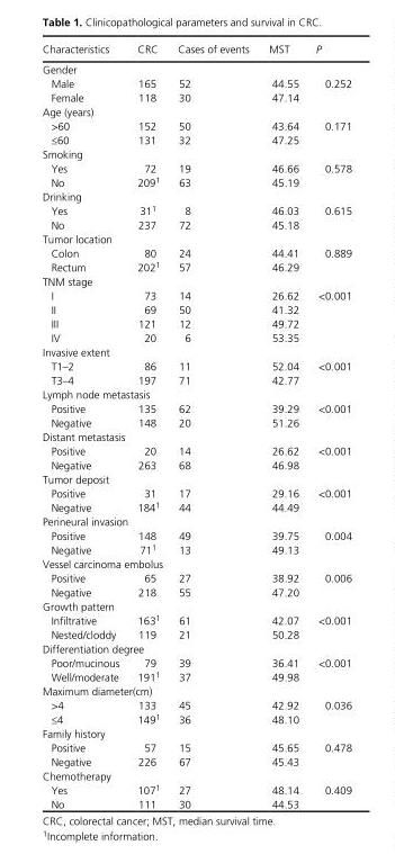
<table><thead><tr><td>Characteristics</td><td>CRC</td><td>Cases of events</td><td>MST</td><td>P</td></tr></thead><tbody><tr><td colspan="5">Gender</td></tr><tr><td>Male</td><td>165</td><td>52</td><td>44.55</td><td rowspan="2">0.252</td></tr><tr><td>Female</td><td>118</td><td>30</td><td>47.14</td></tr><tr><td colspan="5">Age (years)</td></tr><tr><td>&gt;60</td><td>152</td><td>50</td><td>43.64</td><td rowspan="2">0.171</td></tr><tr><td>≤60</td><td>131</td><td>32</td><td>47.25</td></tr><tr><td colspan="5">Smoking</td></tr><tr><td>Yes</td><td>72</td><td>19</td><td>46.66</td><td rowspan="2">0.578</td></tr><tr><td>No</td><td>2091</td><td>63</td><td>45.19</td></tr><tr><td colspan="5">Drinking</td></tr><tr><td>Yes</td><td>311</td><td>8</td><td>46.03</td><td rowspan="2">0.615</td></tr><tr><td>No</td><td>237</td><td>72</td><td>45.18</td></tr><tr><td colspan="5">Tumor location</td></tr><tr><td>Colon</td><td>80</td><td>24</td><td>44.41</td><td rowspan="2">0.889</td></tr><tr><td>Rectum</td><td>2021</td><td>57</td><td>46.29</td></tr><tr><td colspan="5">TNM stage</td></tr><tr><td>I</td><td>73</td><td>14</td><td>26.62</td><td rowspan="4">&lt;0.001</td></tr><tr><td>II</td><td>69</td><td>50</td><td>41.32</td></tr><tr><td>III</td><td>121</td><td>12</td><td>49.72</td></tr><tr><td>IV</td><td>20</td><td>6</td><td>53.35</td></tr><tr><td colspan="5">Invasive extent</td></tr><tr><td>T1–2</td><td>86</td><td>11</td><td>52.04</td><td rowspan="2">&lt;0.001</td></tr><tr><td>T3–4</td><td>197</td><td>71</td><td>42.77</td></tr><tr><td colspan="5">Lymph node metastasis</td></tr><tr><td>Positive</td><td>135</td><td>62</td><td>39.29</td><td rowspan="2">&lt;0.001</td></tr><tr><td>Negative</td><td>148</td><td>20</td><td>51.26</td></tr><tr><td colspan="5">Distant metastasis</td></tr><tr><td>Positive</td><td>20</td><td>14</td><td>26.62</td><td rowspan="2">&lt;0.001</td></tr><tr><td>Negative</td><td>263</td><td>68</td><td>46.98</td></tr><tr><td colspan="5">Tumor deposit</td></tr><tr><td>Positive</td><td>31</td><td>17</td><td>29.16</td><td rowspan="2">&lt;0.001</td></tr><tr><td>Negative</td><td>1841</td><td>44</td><td>44.49</td></tr><tr><td colspan="5">Perineural invasion</td></tr><tr><td>Positive</td><td>148</td><td>49</td><td>39.75</td><td>0.004</td></tr><tr><td>Negative</td><td>711</td><td>13</td><td>49.13</td><td></td></tr><tr><td colspan="5">Vessel carcinoma embolus</td></tr><tr><td>Positive</td><td>65</td><td>27</td><td>38.92</td><td rowspan="2">0.006</td></tr><tr><td>Negative</td><td>218</td><td>55</td><td>47.20</td></tr><tr><td colspan="5">Growth pattern</td></tr><tr><td>Infiltrative</td><td>1631</td><td>61</td><td>42.07</td><td rowspan="2">&lt;0.001</td></tr><tr><td>Nested/cloddy</td><td>119</td><td>21</td><td>50.28</td></tr><tr><td colspan="5">Differentiation degree</td></tr><tr><td>Poor/mucinous</td><td>79</td><td>39</td><td>36.41</td><td rowspan="2">&lt;0.001</td></tr><tr><td>Well/moderate</td><td>1911</td><td>37</td><td>49.98</td></tr><tr><td colspan="5">Maximum diameter(cm)</td></tr><tr><td>&gt;4</td><td>133</td><td>45</td><td>42.92</td><td rowspan="2">0.036</td></tr><tr><td>≤4</td><td>1491</td><td>36</td><td>48.10</td></tr><tr><td colspan="5">Family history</td></tr><tr><td>Positive</td><td>57</td><td>15</td><td>45.65</td><td>0.478</td></tr><tr><td>Negative</td><td>226</td><td>67</td><td>45.43</td><td></td></tr><tr><td colspan="5">Chemotherapy</td></tr><tr><td>Yes</td><td>1071</td><td>27</td><td>48.14</td><td rowspan="2">0.409</td></tr><tr><td>No</td><td>111</td><td>30</td><td>44.53</td></tr></tbody></table>